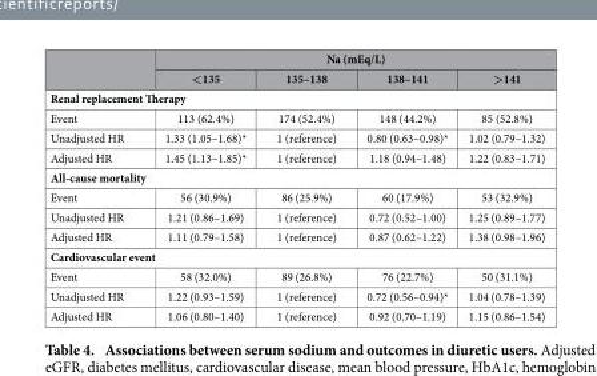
<table><thead><tr><td rowspan="2"></td><td colspan="4">Na (mEq/L)</td></tr><tr><td>&lt;135</td><td>135–138</td><td>138–141</td><td>&gt;141</td></tr></thead><tbody><tr><td colspan="5">Renal replacement Therapy</td></tr><tr><td>Event</td><td>113 (62.4%)</td><td>174 (52.4%)</td><td>148 (44.2%)</td><td>85 (52.8%)</td></tr><tr><td>Unadjusted HR</td><td>1.33 (1.05–1.68)*</td><td>1 (reference)</td><td>0.80 (0.63–0.98)*</td><td>1.02 (0.79–1.32)</td></tr><tr><td>Adjusted HR</td><td>1.45 (1.13–1.85)*</td><td>1 (reference)</td><td>1.18 (0.94–1.48)</td><td>1.22 (0.83–1.71)</td></tr><tr><td colspan="5">All-cause mortality</td></tr><tr><td>Event</td><td>56 (30.9%)</td><td>86 (25.9%)</td><td>60 (17.9%)</td><td>53 (32.9%)</td></tr><tr><td>Unadjusted HR</td><td>1.21 (0.86–1.69)</td><td>1 (reference)</td><td>0.72 (0.52–1.00)</td><td>1.25 (0.89–1.77)</td></tr><tr><td>Adjusted HR</td><td>1.11 (0.79–1.58)</td><td>1 (reference)</td><td>0.87 (0.62–1.22)</td><td>1.38 (0.98–1.96)</td></tr><tr><td colspan="5">Cardiovascular event</td></tr><tr><td>Event</td><td>58 (32.0%)</td><td>89 (26.8%)</td><td>76 (22.7%)</td><td>50 (31.1%)</td></tr><tr><td>Unadjusted HR</td><td>1.22 (0.93–1.59)</td><td>1 (reference)</td><td>0.72 (0.56–0.94)*</td><td>1.04 (0.78–1.39)</td></tr><tr><td>Adjusted HR</td><td>1.06 (0.80–1.40)</td><td>1 (reference)</td><td>0.92 (0.70–1.19)</td><td>1.15 (0.86–1.54)</td></tr></tbody></table>